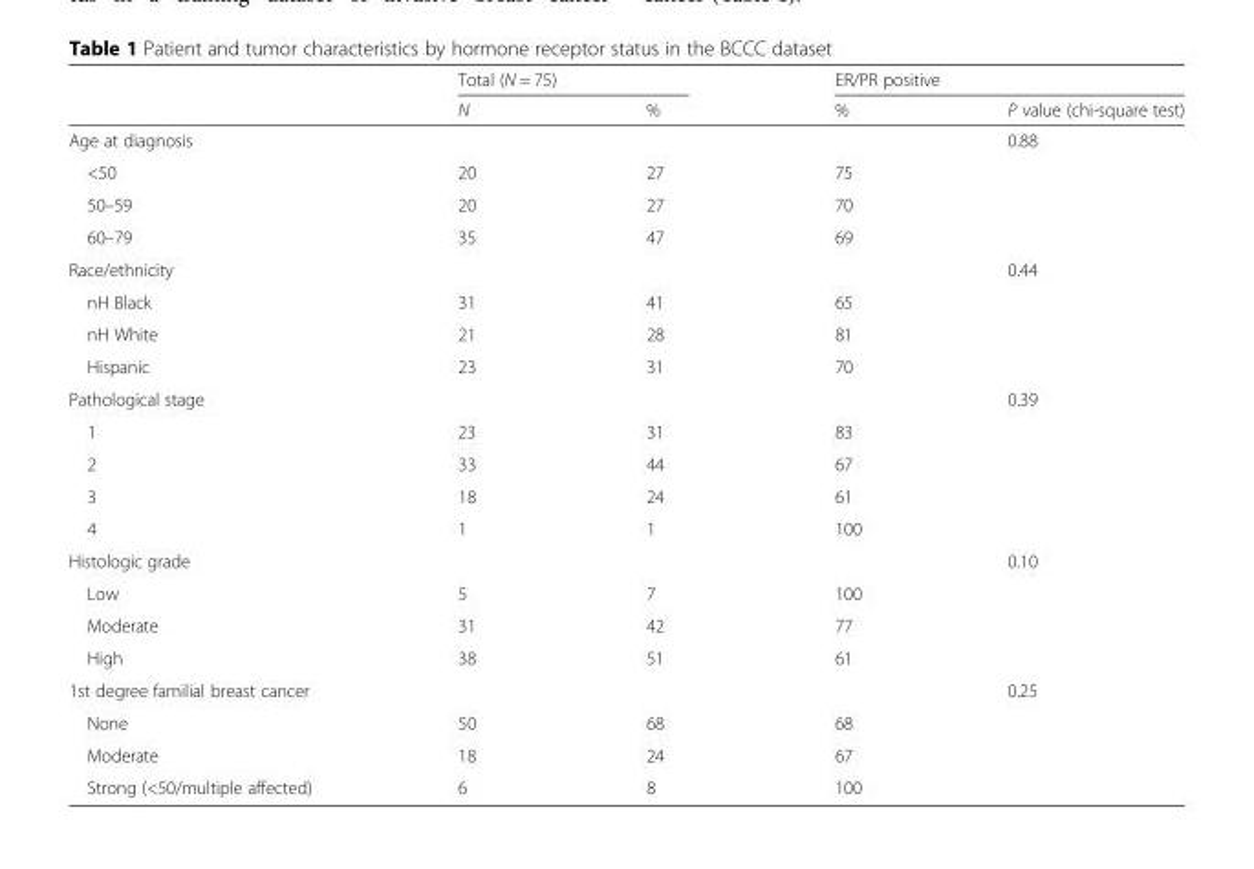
<table><thead><tr><td rowspan="2"></td><td colspan="2">Total (N = 75)</td><td colspan="2">ER/PR positive</td></tr><tr><td>N</td><td>%</td><td>%</td><td>P value (chi-square test)</td></tr></thead><tbody><tr><td>Age at diagnosis</td><td></td><td></td><td></td><td>0.88</td></tr><tr><td>&lt;50</td><td>20</td><td>27</td><td>75</td><td></td></tr><tr><td>50–59</td><td>20</td><td>27</td><td>70</td><td></td></tr><tr><td>60–79</td><td>35</td><td>47</td><td>69</td><td></td></tr><tr><td>Race/ethnicity</td><td></td><td></td><td></td><td>0.44</td></tr><tr><td>nH Black</td><td>31</td><td>41</td><td>65</td><td></td></tr><tr><td>nH White</td><td>21</td><td>28</td><td>81</td><td></td></tr><tr><td>Hispanic</td><td>23</td><td>31</td><td>70</td><td></td></tr><tr><td>Pathological stage</td><td></td><td></td><td></td><td>0.39</td></tr><tr><td>1</td><td>23</td><td>31</td><td>83</td><td></td></tr><tr><td>2</td><td>33</td><td>44</td><td>67</td><td></td></tr><tr><td>3</td><td>18</td><td>24</td><td>61</td><td></td></tr><tr><td>4</td><td>1</td><td>1</td><td>100</td><td></td></tr><tr><td>Histologic grade</td><td></td><td></td><td></td><td>0.10</td></tr><tr><td>Low</td><td>5</td><td>7</td><td>100</td><td></td></tr><tr><td>Moderate</td><td>31</td><td>42</td><td>77</td><td></td></tr><tr><td>High</td><td>38</td><td>51</td><td>61</td><td></td></tr><tr><td>1st degree familial breast cancer</td><td></td><td></td><td></td><td>0.25</td></tr><tr><td>None</td><td>50</td><td>68</td><td>68</td><td></td></tr><tr><td>Moderate</td><td>18</td><td>24</td><td>67</td><td></td></tr><tr><td>Strong (&lt;50/multiple affected)</td><td>6</td><td>8</td><td>100</td><td></td></tr></tbody></table>